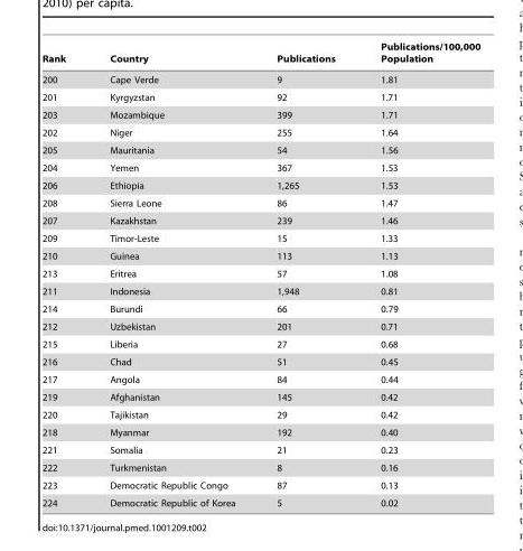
<table><thead><tr><td>Rank</td><td>Country</td><td>Publications</td><td>Publications/100,000 Population</td></tr></thead><tbody><tr><td>200</td><td>Cape Verde</td><td>9</td><td>1.81</td></tr><tr><td>201</td><td>Kyrgyzstan</td><td>92</td><td>1.71</td></tr><tr><td>203</td><td>Mozambique</td><td>399</td><td>1.71</td></tr><tr><td>202</td><td>Niger</td><td>255</td><td>1.64</td></tr><tr><td>205</td><td>Mauritania</td><td>54</td><td>1.56</td></tr><tr><td>204</td><td>Yemen</td><td>367</td><td>1.53</td></tr><tr><td>206</td><td>Ethiopia</td><td>1,265</td><td>1.53</td></tr><tr><td>208</td><td>Sierra Leone</td><td>86</td><td>1.47</td></tr><tr><td>207</td><td>Kazakhstan</td><td>239</td><td>1.46</td></tr><tr><td>209</td><td>Timor-Leste</td><td>15</td><td>1.33</td></tr><tr><td>210</td><td>Guinea</td><td>113</td><td>1.13</td></tr><tr><td>213</td><td>Eritrea</td><td>57</td><td>1.08</td></tr><tr><td>211</td><td>Indonesia</td><td>1,948</td><td>0.81</td></tr><tr><td>214</td><td>Burundi</td><td>66</td><td>0.79</td></tr><tr><td>212</td><td>Uzbekistan</td><td>201</td><td>0.71</td></tr><tr><td>215</td><td>Liberia</td><td>27</td><td>0.68</td></tr><tr><td>216</td><td>Chad</td><td>51</td><td>0.45</td></tr><tr><td>217</td><td>Angola</td><td>84</td><td>0.44</td></tr><tr><td>219</td><td>Afghanistan</td><td>145</td><td>0.42</td></tr><tr><td>220</td><td>Tajikistan</td><td>29</td><td>0.42</td></tr><tr><td>218</td><td>Myanmar</td><td>192</td><td>0.40</td></tr><tr><td>221</td><td>Somalia</td><td>21</td><td>0.23</td></tr><tr><td>222</td><td>Turkmenistan</td><td>8</td><td>0.16</td></tr><tr><td>223</td><td>Democratic Republic Congo</td><td>87</td><td>0.13</td></tr><tr><td>224</td><td>Democratic Republic of Korea</td><td>5</td><td>0.02</td></tr></tbody></table>